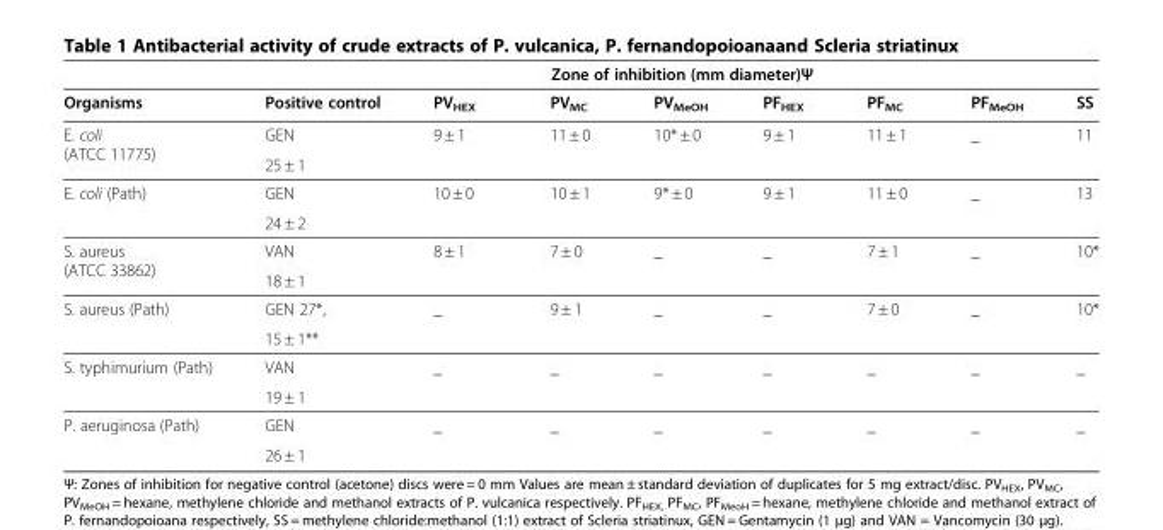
<table><thead><tr><td rowspan="2">Organisms</td><td colspan="8">Zone of inhibition (mm diameter)Ψ</td></tr><tr><td>Positive control</td><td>PV<sub>HEX</sub></td><td>PV<sub>MC</sub></td><td>PV<sub>MeOH</sub></td><td>PF<sub>HEX</sub></td><td>PF<sub>MC</sub></td><td>PF<sub>MeOH</sub></td><td>SS</td></tr></thead><tbody><tr><td rowspan="2">E. coli (ATCC 11775)</td><td>GEN</td><td rowspan="2">9 ± 1</td><td rowspan="2">11 ± 0</td><td rowspan="2">10* ± 0</td><td rowspan="2">9 ± 1</td><td rowspan="2">11 ± 1</td><td rowspan="2">_</td><td rowspan="2">11</td></tr><tr><td>25 ± 1</td></tr><tr><td rowspan="2">E. coli (Path)</td><td>GEN</td><td rowspan="2">10 ± 0</td><td rowspan="2">10 ± 1</td><td rowspan="2">9* ± 0</td><td rowspan="2">9 ± 1</td><td rowspan="2">11 ± 0</td><td rowspan="2">_</td><td rowspan="2">13</td></tr><tr><td>24 ± 2</td></tr><tr><td rowspan="2">S. aureus (ATCC 33862)</td><td>VAN</td><td rowspan="2">8 ± 1</td><td rowspan="2">7 ± 0</td><td rowspan="2">_</td><td rowspan="2">_</td><td rowspan="2">7 ± 1</td><td rowspan="2">_</td><td rowspan="2">10*</td></tr><tr><td>18 ± 1</td></tr><tr><td rowspan="2">S. aureus (Path)</td><td>GEN 27*,</td><td rowspan="2">_</td><td rowspan="2">9 ± 1</td><td rowspan="2">_</td><td rowspan="2">_</td><td rowspan="2">7 ± 0</td><td rowspan="2">_</td><td rowspan="2">10*</td></tr><tr><td>15 ± 1**</td></tr><tr><td rowspan="2">S. typhimurium (Path)</td><td>VAN</td><td rowspan="2">_</td><td rowspan="2">_</td><td rowspan="2">_</td><td rowspan="2">_</td><td rowspan="2">_</td><td rowspan="2">_</td><td rowspan="2">_</td></tr><tr><td>19 ± 1</td></tr><tr><td rowspan="2">P. aeruginosa (Path)</td><td>GEN</td><td rowspan="2">_</td><td rowspan="2">_</td><td rowspan="2">_</td><td rowspan="2">_</td><td rowspan="2">_</td><td rowspan="2">_</td><td rowspan="2">_</td></tr><tr><td>26 ± 1</td></tr></tbody></table>